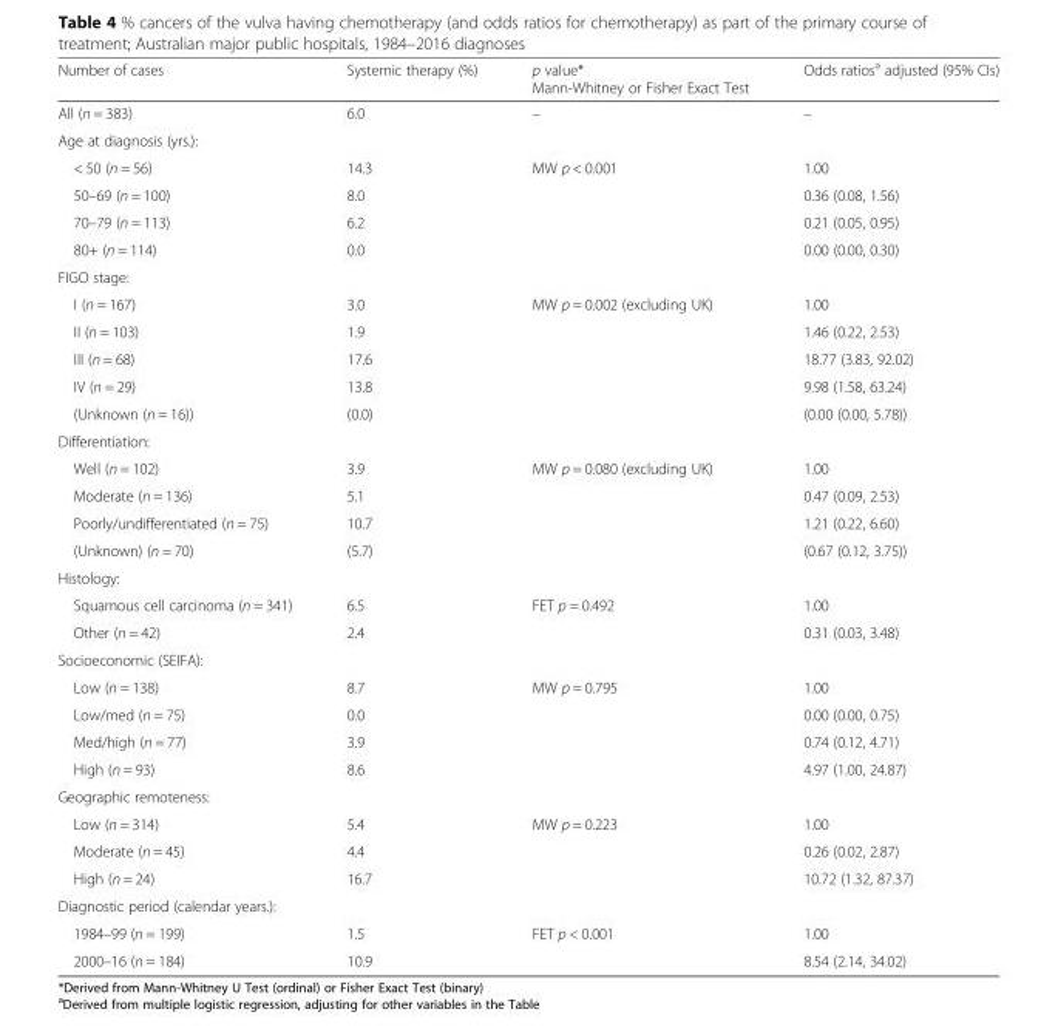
<table><thead><tr><td>Number of cases</td><td>Systemic therapy (%)</td><td>p value* Mann-Whitney or Fisher Exact Test</td><td>Odds ratios<sup>a</sup> adjusted (95% CIs)</td></tr></thead><tbody><tr><td>All (n = 383)</td><td>6.0</td><td>–</td><td>–</td></tr><tr><td colspan="4">Age at diagnosis (yrs.):</td></tr><tr><td>&lt; 50 (n = 56)</td><td>14.3</td><td rowspan="4">MW p &lt; 0.001</td><td>1.00</td></tr><tr><td>50–69 (n = 100)</td><td>8.0</td><td>0.36 (0.08, 1.56)</td></tr><tr><td>70–79 (n = 113)</td><td>6.2</td><td>0.21 (0.05, 0.95)</td></tr><tr><td>80+ (n = 114)</td><td>0.0</td><td>0.00 (0.00, 0.30)</td></tr><tr><td colspan="4">FIGO stage:</td></tr><tr><td>I (n = 167)</td><td>3.0</td><td rowspan="5">MW p = 0.002 (excluding UK)</td><td>1.00</td></tr><tr><td>II (n = 103)</td><td>1.9</td><td>1.46 (0.22, 2.53)</td></tr><tr><td>III (n = 68)</td><td>17.6</td><td>18.77 (3.83, 92.02)</td></tr><tr><td>IV (n = 29)</td><td>13.8</td><td>9.98 (1.58, 63.24)</td></tr><tr><td>(Unknown (n = 16))</td><td>(0.0)</td><td>(0.00 (0.00, 5.78))</td></tr><tr><td colspan="4">Differentiation:</td></tr><tr><td>Well (n = 102)</td><td>3.9</td><td rowspan="4">MW p = 0.080 (excluding UK)</td><td>1.00</td></tr><tr><td>Moderate (n = 136)</td><td>5.1</td><td>0.47 (0.09, 2.53)</td></tr><tr><td>Poorly/undifferentiated (n = 75)</td><td>10.7</td><td>1.21 (0.22, 6.60)</td></tr><tr><td>(Unknown) (n = 70)</td><td>(5.7)</td><td>(0.67 (0.12, 3.75))</td></tr><tr><td colspan="4">Histology:</td></tr><tr><td>Squamous cell carcinoma (n = 341)</td><td>6.5</td><td rowspan="2">FET p = 0.492</td><td>1.00</td></tr><tr><td>Other (n = 42)</td><td>2.4</td><td>0.31 (0.03, 3.48)</td></tr><tr><td colspan="4">Socioeconomic (SEIFA):</td></tr><tr><td>Low (n = 138)</td><td>8.7</td><td rowspan="4">MW p = 0.795</td><td>1.00</td></tr><tr><td>Low/med (n = 75)</td><td>0.0</td><td>0.00 (0.00, 0.75)</td></tr><tr><td>Med/high (n = 77)</td><td>3.9</td><td>0.74 (0.12, 4.71)</td></tr><tr><td>High (n = 93)</td><td>8.6</td><td>4.97 (1.00, 24.87)</td></tr><tr><td colspan="4">Geographic remoteness:</td></tr><tr><td>Low (n = 314)</td><td>5.4</td><td rowspan="3">MW p = 0.223</td><td>1.00</td></tr><tr><td>Moderate (n = 45)</td><td>4.4</td><td>0.26 (0.02, 2.87)</td></tr><tr><td>High (n = 24)</td><td>16.7</td><td>10.72 (1.32, 87.37)</td></tr><tr><td colspan="4">Diagnostic period (calendar years.):</td></tr><tr><td>1984–99 (n = 199)</td><td>1.5</td><td rowspan="2">FET p &lt; 0.001</td><td>1.00</td></tr><tr><td>2000–16 (n = 184)</td><td>10.9</td><td>8.54 (2.14, 34.02)</td></tr></tbody></table>